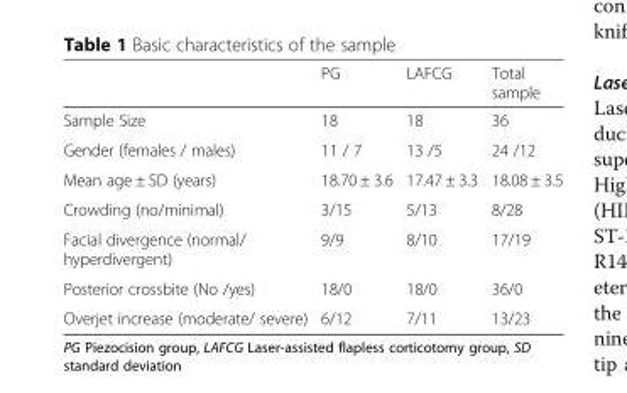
<table><thead><tr><td></td><td>PG</td><td>LAFCG</td><td>Total sample</td></tr></thead><tbody><tr><td>Sample Size</td><td>18</td><td>18</td><td>36</td></tr><tr><td>Gender (females / males)</td><td>11 / 7</td><td>13 /5</td><td>24 /12</td></tr><tr><td>Mean age ± SD (years)</td><td>18.70 ± 3.6</td><td>17.47 ± 3.3</td><td>18.08 ± 3.5</td></tr><tr><td>Crowding (no/minimal)</td><td>3/15</td><td>5/13</td><td>8/28</td></tr><tr><td>Facial divergence (normal/ hyperdivergent)</td><td>9/9</td><td>8/10</td><td>17/19</td></tr><tr><td>Posterior crossbite (No /yes)</td><td>18/0</td><td>18/0</td><td>36/0</td></tr><tr><td>Overjet increase (moderate/ severe)</td><td>6/12</td><td>7/11</td><td>13/23</td></tr></tbody></table>